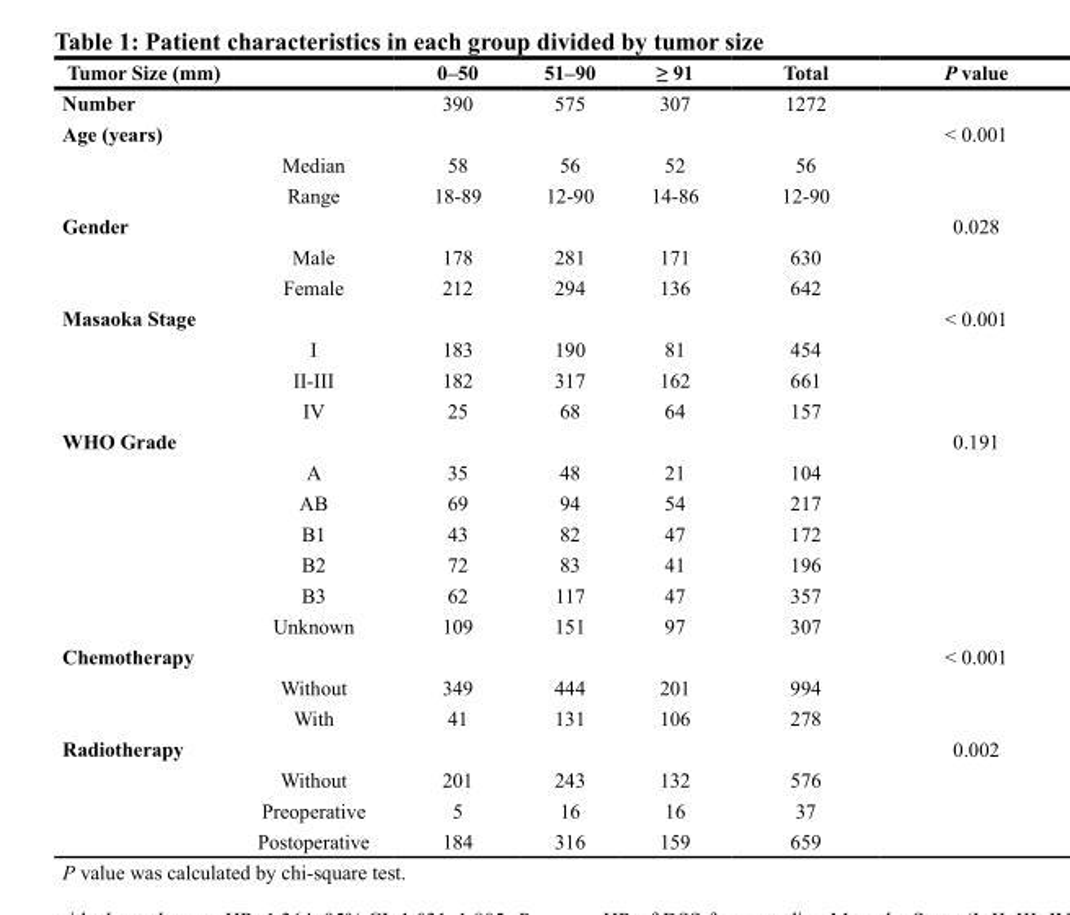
<table><thead><tr><td>Tumor Size (mm)</td><td></td><td>0–50</td><td>51–90</td><td>≥ 91</td><td>Total</td><td>P value</td></tr></thead><tbody><tr><td>Number</td><td></td><td>390</td><td>575</td><td>307</td><td>1272</td><td></td></tr><tr><td rowspan="3">Age (years)</td><td></td><td></td><td></td><td></td><td></td><td>&lt; 0.001</td></tr><tr><td>Median</td><td>58</td><td>56</td><td>52</td><td>56</td><td></td></tr><tr><td>Range</td><td>18-89</td><td>12-90</td><td>14-86</td><td>12-90</td><td></td></tr><tr><td rowspan="3">Gender</td><td></td><td></td><td></td><td></td><td></td><td>0.028</td></tr><tr><td>Male</td><td>178</td><td>281</td><td>171</td><td>630</td><td></td></tr><tr><td>Female</td><td>212</td><td>294</td><td>136</td><td>642</td><td></td></tr><tr><td rowspan="4">Masaoka Stage</td><td></td><td></td><td></td><td></td><td></td><td>&lt; 0.001</td></tr><tr><td>I</td><td>183</td><td>190</td><td>81</td><td>454</td><td></td></tr><tr><td>II-III</td><td>182</td><td>317</td><td>162</td><td>661</td><td></td></tr><tr><td>IV</td><td>25</td><td>68</td><td>64</td><td>157</td><td></td></tr><tr><td rowspan="7">WHO Grade</td><td></td><td></td><td></td><td></td><td></td><td>0.191</td></tr><tr><td>A</td><td>35</td><td>48</td><td>21</td><td>104</td><td></td></tr><tr><td>AB</td><td>69</td><td>94</td><td>54</td><td>217</td><td></td></tr><tr><td>B1</td><td>43</td><td>82</td><td>47</td><td>172</td><td></td></tr><tr><td>B2</td><td>72</td><td>83</td><td>41</td><td>196</td><td></td></tr><tr><td>B3</td><td>62</td><td>117</td><td>47</td><td>357</td><td></td></tr><tr><td>Unknown</td><td>109</td><td>151</td><td>97</td><td>307</td><td></td></tr><tr><td rowspan="3">Chemotherapy</td><td></td><td></td><td></td><td></td><td></td><td>&lt; 0.001</td></tr><tr><td>Without</td><td>349</td><td>444</td><td>201</td><td>994</td><td></td></tr><tr><td>With</td><td>41</td><td>131</td><td>106</td><td>278</td><td></td></tr><tr><td rowspan="4">Radiotherapy</td><td></td><td></td><td></td><td></td><td></td><td>0.002</td></tr><tr><td>Without</td><td>201</td><td>243</td><td>132</td><td>576</td><td></td></tr><tr><td>Preoperative</td><td>5</td><td>16</td><td>16</td><td>37</td><td></td></tr><tr><td>Postoperative</td><td>184</td><td>316</td><td>159</td><td>659</td><td></td></tr></tbody></table>